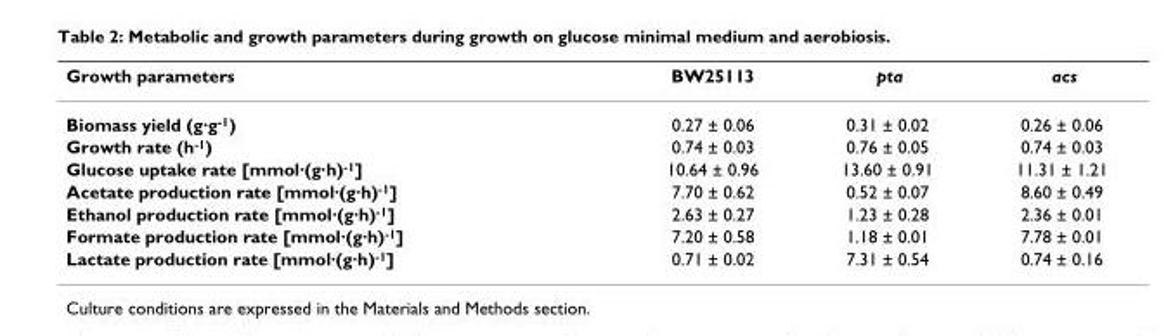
<table><thead><tr><td>Growth parameters</td><td>BW25113</td><td>pta</td><td>acs</td></tr></thead><tbody><tr><td>Biomass yield (g·g<sup>-1</sup>)</td><td>0.27 ± 0.06</td><td>0.31 ± 0.02</td><td>0.26 ± 0.06</td></tr><tr><td>Growth rate (h<sup>-1</sup>)</td><td>0.74 ± 0.03</td><td>0.76 ± 0.05</td><td>0.74 ± 0.03</td></tr><tr><td>Glucose uptake rate [mmol·(g·h)<sup>-1</sup>]</td><td>10.64 ± 0.96</td><td>13.60 ± 0.91</td><td>11.31 ± 1.21</td></tr><tr><td>Acetate production rate [mmol·(g·h)<sup>-1</sup>]</td><td>7.70 ± 0.62</td><td>0.52 ± 0.07</td><td>8.60 ± 0.49</td></tr><tr><td>Ethanol production rate [mmol·(g·h)<sup>-1</sup>]</td><td>2.63 ± 0.27</td><td>1.23 ± 0.28</td><td>2.36 ± 0.01</td></tr><tr><td>Formate production rate [mmol·(g·h)<sup>-1</sup>]</td><td>7.20 ± 0.58</td><td>1.18 ± 0.01</td><td>7.78 ± 0.01</td></tr><tr><td>Lactate production rate [mmol·(g·h)<sup>-1</sup>]</td><td>0.71 ± 0.02</td><td>7.31 ± 0.54</td><td>0.74 ± 0.16</td></tr></tbody></table>